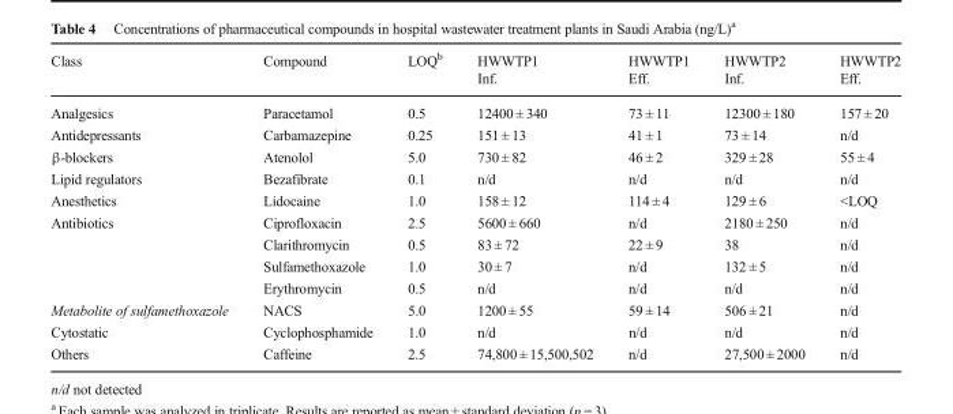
<table><thead><tr><td rowspan="2">Class</td><td rowspan="2">Compound</td><td rowspan="2">LOQ<sup>b</sup></td><td rowspan="2">HWWTP1 Inf.</td><td rowspan="2">HWWTP1 Eff.</td><td rowspan="2">HWWTP2 Inf.</td><td rowspan="2">HWWTP2 Eff.</td></tr><tr></tr></thead><tbody><tr><td>Analgesics</td><td>Paracetamol</td><td>0.5</td><td>12400 ± 340</td><td>73 ± 11</td><td>12300 ± 180</td><td>157 ± 20</td></tr><tr><td>Antidepressants</td><td>Carbamazepine</td><td>0.25</td><td>151 ± 13</td><td>41 ± 1</td><td>73 ± 14</td><td>n/d</td></tr><tr><td>β-blockers</td><td>Atenolol</td><td>5.0</td><td>730 ± 82</td><td>46 ± 2</td><td>329 ± 28</td><td>55 ± 4</td></tr><tr><td>Lipid regulators</td><td>Bezafibrate</td><td>0.1</td><td>n/d</td><td>n/d</td><td>n/d</td><td>n/d</td></tr><tr><td>Anesthetics</td><td>Lidocaine</td><td>1.0</td><td>158 ± 12</td><td>114 ± 4</td><td>129 ± 6</td><td>&lt;LOQ</td></tr><tr><td rowspan="4">Antibiotics</td><td>Ciprofloxacin</td><td>2.5</td><td>5600 ± 660</td><td>n/d</td><td>2180 ± 250</td><td>n/d</td></tr><tr><td>Clarithromycin</td><td>0.5</td><td>83 ± 72</td><td>22 ± 9</td><td>38</td><td>n/d</td></tr><tr><td>Sulfamethoxazole</td><td>1.0</td><td>30 ± 7</td><td>n/d</td><td>132 ± 5</td><td>n/d</td></tr><tr><td>Erythromycin</td><td>0.5</td><td>n/d</td><td>n/d</td><td>n/d</td><td>n/d</td></tr><tr><td>Metabolite of sulfamethoxazole</td><td>NACS</td><td>5.0</td><td>1200 ± 55</td><td>59 ± 14</td><td>506 ± 21</td><td>n/d</td></tr><tr><td>Cytostatic</td><td>Cyclophosphamide</td><td>1.0</td><td>n/d</td><td>n/d</td><td>n/d</td><td>n/d</td></tr><tr><td>Others</td><td>Caffeine</td><td>2.5</td><td>74,800 ± 15,500,502</td><td>n/d</td><td>27,500 ± 2000</td><td>n/d</td></tr></tbody></table>